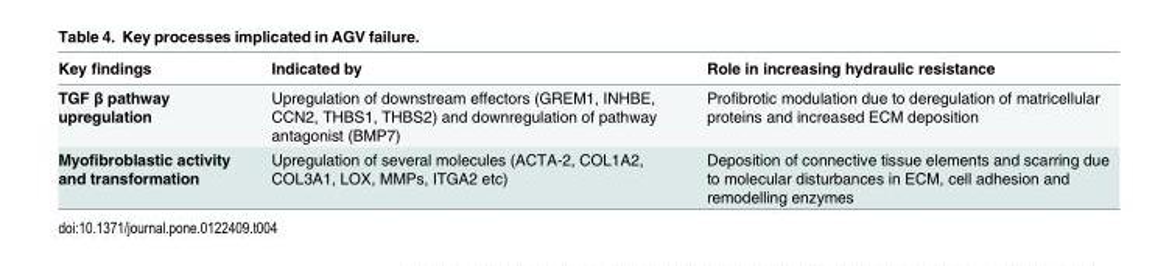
<table><thead><tr><td>Key findings</td><td>Indicated by</td><td>Role in increasing hydraulic resistance</td></tr></thead><tbody><tr><td>TGF β pathway upregulation</td><td>Upregulation of downstream effectors (GREM1, INHBE, CCN2, THBS1, THBS2) and downregulation of pathway antagonist (BMP7)</td><td>Profibrotic modulation due to deregulation of matricellular proteins and increased ECM deposition</td></tr><tr><td>Myofibroblastic activity and transformation</td><td>Upregulation of several molecules (ACTA-2, COL1A2, COL3A1, LOX, MMPs, ITGA2 etc)</td><td>Deposition of connective tissue elements and scarring due to molecular disturbances in ECM, cell adhesion and remodelling enzymes</td></tr></tbody></table>